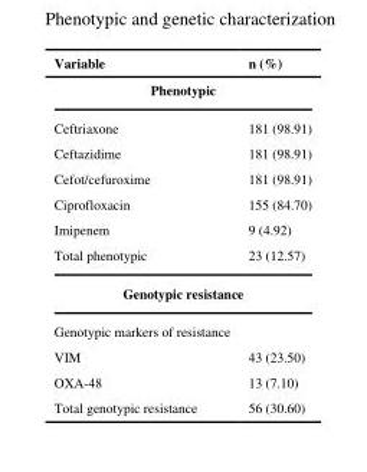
<table><thead><tr><td>Variable</td><td>n (%)</td></tr></thead><tbody><tr><td colspan="2">Phenotypic</td></tr><tr><td>Ceftriaxone</td><td>181 (98.91)</td></tr><tr><td>Ceftazidime</td><td>181 (98.91)</td></tr><tr><td>Cefot/cefuroxime</td><td>181 (98.91)</td></tr><tr><td>Ciprofloxacin</td><td>155 (84.70)</td></tr><tr><td>Imipenem</td><td>9 (4.92)</td></tr><tr><td>Total phenotypic</td><td>23 (12.57)</td></tr><tr><td colspan="2">Genotypic resistance</td></tr><tr><td colspan="2">Genotypic markers of resistance</td></tr><tr><td>VIM</td><td>43 (23.50)</td></tr><tr><td>OXA-48</td><td>13 (7.10)</td></tr><tr><td>Total genotypic resistance</td><td>56 (30.60)</td></tr></tbody></table>